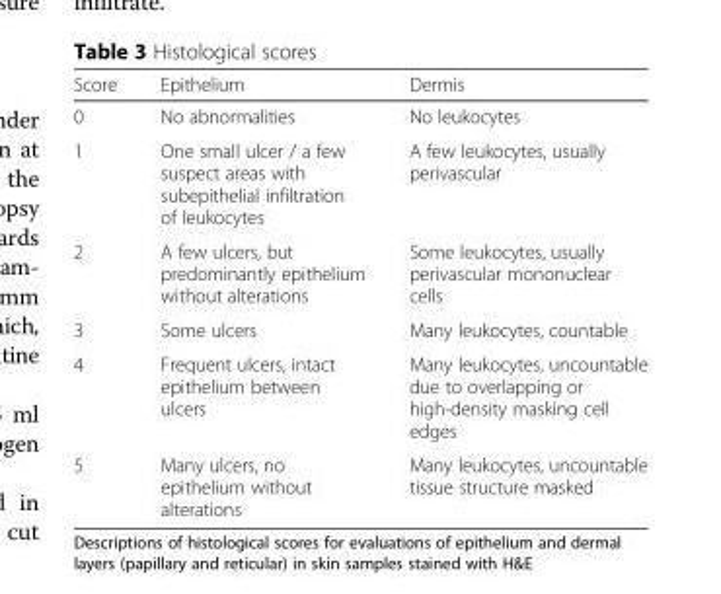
<table><thead><tr><td>Score</td><td>Epithelium</td><td>Dermis</td></tr></thead><tbody><tr><td>0</td><td>No abnormalities</td><td>No leukocytes</td></tr><tr><td>1</td><td>One small ulcer / a few suspect areas with subepithelial infiltration of leukocytes</td><td>A few leukocytes, usually perivascular</td></tr><tr><td>2</td><td>A few ulcers, but predominantly epithelium without alterations</td><td>Some leukocytes, usually perivascular mononuclear cells</td></tr><tr><td>3</td><td>Some ulcers</td><td>Many leukocytes, countable</td></tr><tr><td>4</td><td>Frequent ulcers, intact epithelium between ulcers</td><td>Many leukocytes, uncountable due to overlapping or high-density masking cell edges</td></tr><tr><td>5</td><td>Many ulcers, no epithelium without alterations</td><td>Many leukocytes, uncountable tissue structure masked</td></tr></tbody></table>